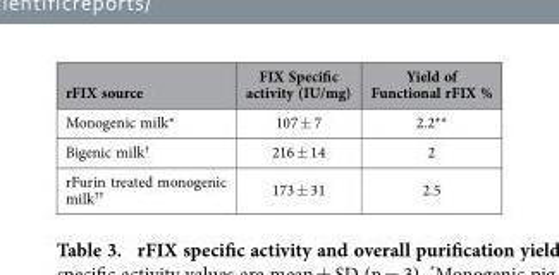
<table><thead><tr><td>rFIX source</td><td>FIX Specific activity (IU/mg)</td><td>Yield of Functional rFIX %</td></tr></thead><tbody><tr><td>Monogenic milk*</td><td>107 ± 7</td><td>2.2**</td></tr><tr><td>Bigenic milk†</td><td>216 ± 14</td><td>2</td></tr><tr><td>rFurin treated monogenic milk††</td><td>173 ± 31</td><td>2.5</td></tr></tbody></table>